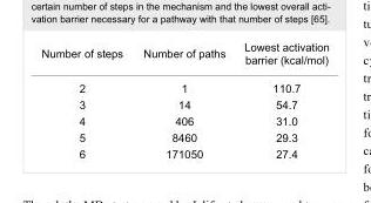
<table><tbody><tr><td>Number of steps</td><td>Number of paths</td><td>Lowest activation barrier (kcal/mol)</td></tr><tr><td>2</td><td>1</td><td>110.7</td></tr><tr><td>3</td><td>14</td><td>54.7</td></tr><tr><td>4</td><td>406</td><td>31.0</td></tr><tr><td>5</td><td>8460</td><td>29.3</td></tr><tr><td>6</td><td>171050</td><td>27.4</td></tr></tbody></table>